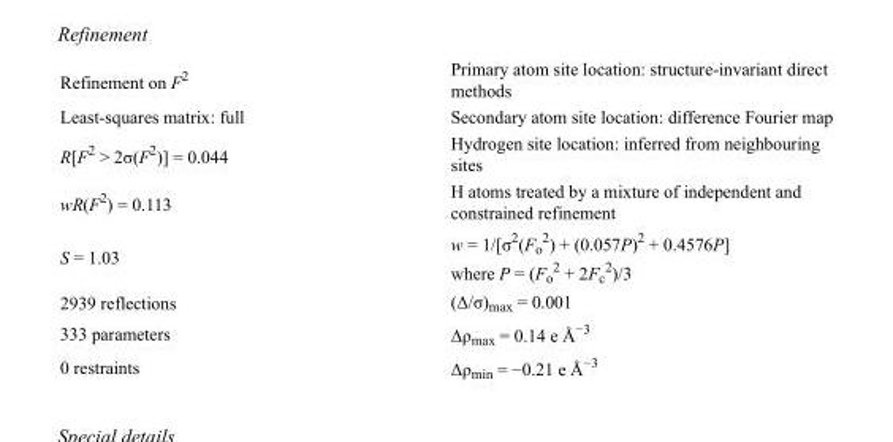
<table><tbody><tr><td>Refinement on F<sup>2</sup></td><td>Primary atom site location: structure-invariant direct methods</td></tr><tr><td>Least-squares matrix: full</td><td>Secondary atom site location: difference Fourier map</td></tr><tr><td>R[F<sup>2</sup> &gt; 2σ(F<sup>2</sup>)] = 0.044</td><td>Hydrogen site location: inferred from neighbouring sites</td></tr><tr><td>wR(F<sup>2</sup>) = 0.113</td><td>H atoms treated by a mixture of independent and constrained refinement</td></tr><tr><td>S = 1.03</td><td>w = 1/[σ<sup>2</sup>(F<sub>o</sub> <sup>2</sup>) + (0.057P)<sup>2</sup> + 0.4576P] where P = (F<sub>o</sub> <sup>2</sup> + 2F<sub>c</sub> <sup>2</sup>)/3</td></tr><tr><td>2939 reflections</td><td>(Δ/σ)<sub>max</sub> = 0.001</td></tr><tr><td>333 parameters</td><td>Δρ<sub>max</sub> = 0.14 e Å<sup>−3</sup></td></tr><tr><td>0 restraints</td><td>Δρ<sub>min</sub> = −0.21 e Å<sup>−3</sup></td></tr></tbody></table>